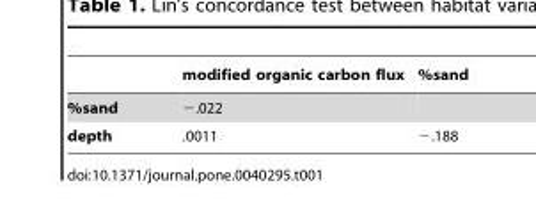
<table><thead><tr><td></td><td>modified organic carbon flux</td><td>%sand</td></tr></thead><tbody><tr><td>%sand</td><td>−.022</td><td></td></tr><tr><td>depth</td><td>.0011</td><td>−.188</td></tr></tbody></table>